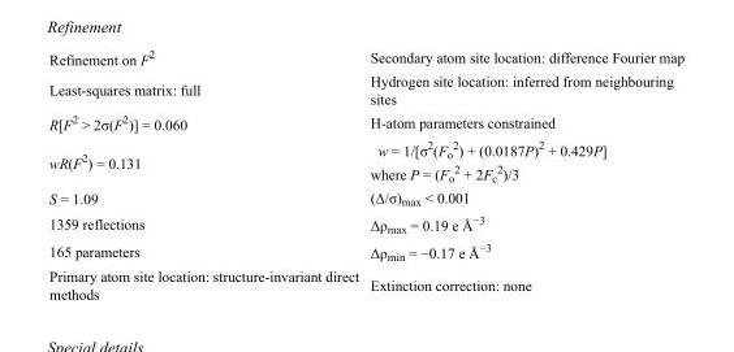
<table><tbody><tr><td>Refinement on F<sup>2</sup></td><td>Secondary atom site location: difference Fourier map</td></tr><tr><td>Least-squares matrix: full</td><td>Hydrogen site location: inferred from neighbouring sites</td></tr><tr><td>R[F<sup>2</sup> &gt; 2σ(F<sup>2</sup>)] = 0.060</td><td>H-atom parameters constrained</td></tr><tr><td>wR(F<sup>2</sup>) = 0.131</td><td>w = 1/[σ<sup>2</sup>(F<sub>o</sub> <sup>2</sup>) + (0.0187P)<sup>2</sup> + 0.429P] where P = (F<sub>o</sub> <sup>2</sup> + 2F<sub>c</sub> <sup>2</sup>)/3</td></tr><tr><td>S = 1.09</td><td>(Δ/σ)<sub>max</sub> &lt; 0.001</td></tr><tr><td>1359 reflections</td><td>Δρ<sub>max</sub> = 0.19 e Å<sup>−3</sup></td></tr><tr><td>165 parameters</td><td>Δρ<sub>min</sub> = −0.17 e Å<sup>−3</sup></td></tr><tr><td>Primary atom site location: structure-invariant direct methods</td><td>Extinction correction: none</td></tr></tbody></table>